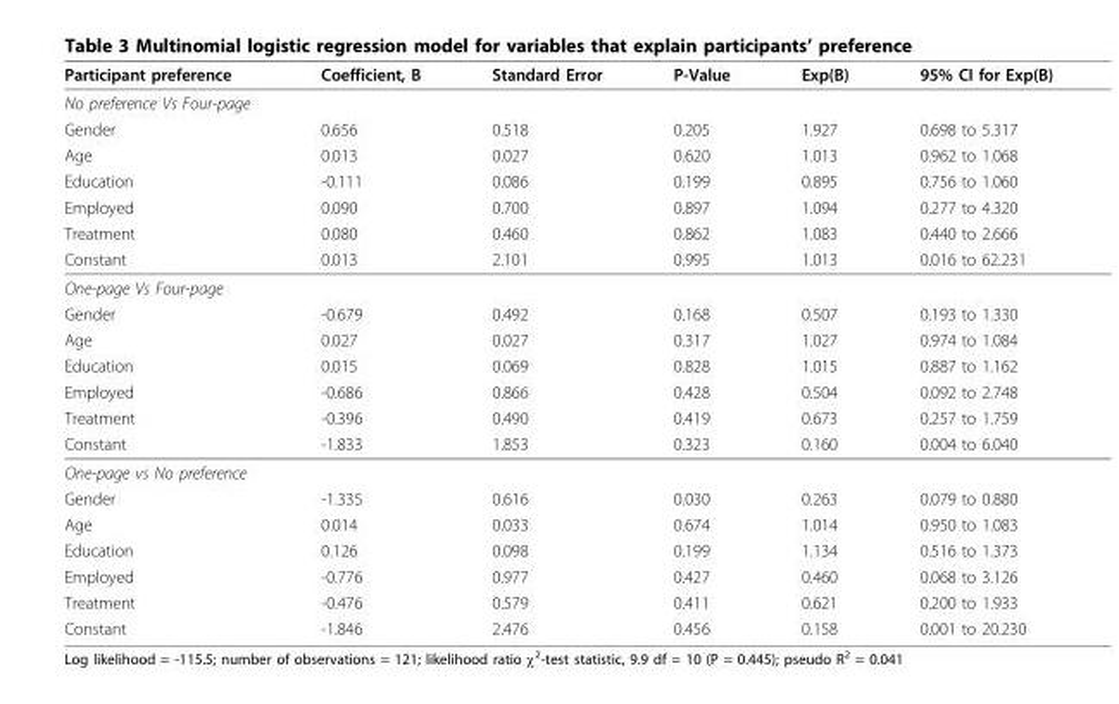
<table><thead><tr><td>Participant preference</td><td>Coefficient, B</td><td>Standard Error</td><td>P-Value</td><td>Exp(B)</td><td>95% CI for Exp(B)</td></tr></thead><tbody><tr><td colspan="6">No preference Vs Four-page</td></tr><tr><td>Gender</td><td>0.656</td><td>0.518</td><td>0.205</td><td>1.927</td><td>0.698 to 5.317</td></tr><tr><td>Age</td><td>0.013</td><td>0.027</td><td>0.620</td><td>1.013</td><td>0.962 to 1.068</td></tr><tr><td>Education</td><td>-0.111</td><td>0.086</td><td>0.199</td><td>0.895</td><td>0.756 to 1.060</td></tr><tr><td>Employed</td><td>0.090</td><td>0.700</td><td>0.897</td><td>1.094</td><td>0.277 to 4.320</td></tr><tr><td>Treatment</td><td>0.080</td><td>0.460</td><td>0.862</td><td>1.083</td><td>0.440 to 2.666</td></tr><tr><td>Constant</td><td>0.013</td><td>2.101</td><td>0.995</td><td>1.013</td><td>0.016 to 62.231</td></tr><tr><td colspan="6">One-page Vs Four-page</td></tr><tr><td>Gender</td><td>-0.679</td><td>0.492</td><td>0.168</td><td>0.507</td><td>0.193 to 1.330</td></tr><tr><td>Age</td><td>0.027</td><td>0.027</td><td>0.317</td><td>1.027</td><td>0.974 to 1.084</td></tr><tr><td>Education</td><td>0.015</td><td>0.069</td><td>0.828</td><td>1.015</td><td>0.887 to 1.162</td></tr><tr><td>Employed</td><td>-0.686</td><td>0.866</td><td>0.428</td><td>0.504</td><td>0.092 to 2.748</td></tr><tr><td>Treatment</td><td>-0.396</td><td>0.490</td><td>0.419</td><td>0.673</td><td>0.257 to 1.759</td></tr><tr><td>Constant</td><td>-1.833</td><td>1.853</td><td>0.323</td><td>0.160</td><td>0.004 to 6.040</td></tr><tr><td colspan="6">One-page vs No preference</td></tr><tr><td>Gender</td><td>-1.335</td><td>0.616</td><td>0.030</td><td>0.263</td><td>0.079 to 0.880</td></tr><tr><td>Age</td><td>0.014</td><td>0.033</td><td>0.674</td><td>1.014</td><td>0.950 to 1.083</td></tr><tr><td>Education</td><td>0.126</td><td>0.098</td><td>0.199</td><td>1.134</td><td>0.516 to 1.373</td></tr><tr><td>Employed</td><td>-0.776</td><td>0.977</td><td>0.427</td><td>0.460</td><td>0.068 to 3.126</td></tr><tr><td>Treatment</td><td>-0.476</td><td>0.579</td><td>0.411</td><td>0.621</td><td>0.200 to 1.933</td></tr><tr><td>Constant</td><td>-1.846</td><td>2.476</td><td>0.456</td><td>0.158</td><td>0.001 to 20.230</td></tr></tbody></table>